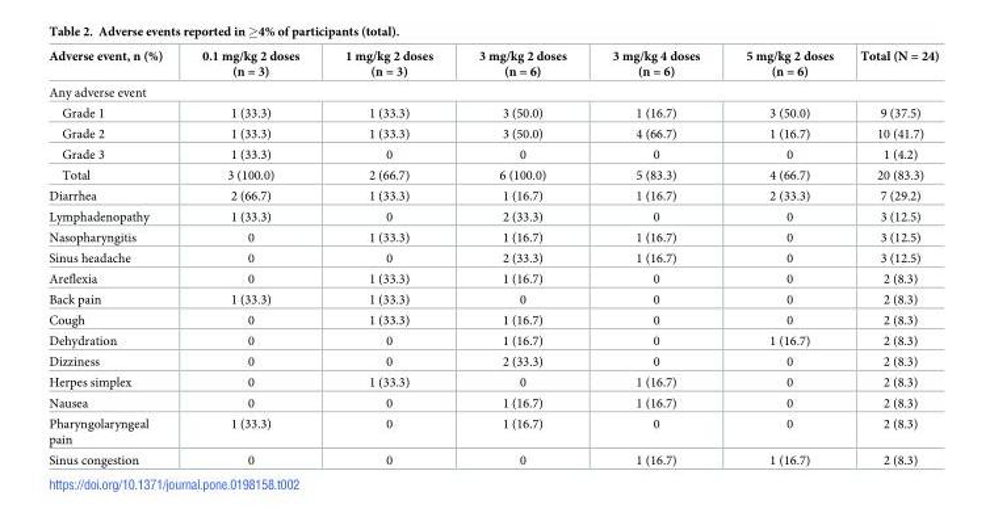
<table><thead><tr><td>Adverse event, n (%)</td><td>0.1 mg/kg 2 doses (n = 3)</td><td>1 mg/kg 2 doses (n = 3)</td><td>3 mg/kg 2 doses (n = 6)</td><td>3 mg/kg 4 doses (n = 6)</td><td>5 mg/kg 2 doses (n = 6)</td><td>Total (N = 24)</td></tr></thead><tbody><tr><td colspan="7">Any adverse event</td></tr><tr><td>Grade 1</td><td>1 (33.3)</td><td>1 (33.3)</td><td>3 (50.0)</td><td>1 (16.7)</td><td>3 (50.0)</td><td>9 (37.5)</td></tr><tr><td>Grade 2</td><td>1 (33.3)</td><td>1 (33.3)</td><td>3 (50.0)</td><td>4 (66.7)</td><td>1 (16.7)</td><td>10 (41.7)</td></tr><tr><td>Grade 3</td><td>1 (33.3)</td><td>0</td><td>0</td><td>0</td><td>0</td><td>1 (4.2)</td></tr><tr><td>Total</td><td>3 (100.0)</td><td>2 (66.7)</td><td>6 (100.0)</td><td>5 (83.3)</td><td>4 (66.7)</td><td>20 (83.3)</td></tr><tr><td>Diarrhea</td><td>2 (66.7)</td><td>1 (33.3)</td><td>1 (16.7)</td><td>1 (16.7)</td><td>2 (33.3)</td><td>7 (29.2)</td></tr><tr><td>Lymphadenopathy</td><td>1 (33.3)</td><td>0</td><td>2 (33.3)</td><td>0</td><td>0</td><td>3 (12.5)</td></tr><tr><td>Nasopharyngitis</td><td>0</td><td>1 (33.3)</td><td>1 (16.7)</td><td>1 (16.7)</td><td>0</td><td>3 (12.5)</td></tr><tr><td>Sinus headache</td><td>0</td><td>0</td><td>2 (33.3)</td><td>1 (16.7)</td><td>0</td><td>3 (12.5)</td></tr><tr><td>Areflexia</td><td>0</td><td>1 (33.3)</td><td>1 (16.7)</td><td>0</td><td>0</td><td>2 (8.3)</td></tr><tr><td>Back pain</td><td>1 (33.3)</td><td>1 (33.3)</td><td>0</td><td>0</td><td>0</td><td>2 (8.3)</td></tr><tr><td>Cough</td><td>0</td><td>1 (33.3)</td><td>1 (16.7)</td><td>0</td><td>0</td><td>2 (8.3)</td></tr><tr><td>Dehydration</td><td>0</td><td>0</td><td>1 (16.7)</td><td>0</td><td>1 (16.7)</td><td>2 (8.3)</td></tr><tr><td>Dizziness</td><td>0</td><td>0</td><td>2 (33.3)</td><td>0</td><td>0</td><td>2 (8.3)</td></tr><tr><td>Herpes simplex</td><td>0</td><td>1 (33.3)</td><td>0</td><td>1 (16.7)</td><td>0</td><td>2 (8.3)</td></tr><tr><td>Nausea</td><td>0</td><td>0</td><td>1 (16.7)</td><td>1 (16.7)</td><td>0</td><td>2 (8.3)</td></tr><tr><td>Pharyngolaryngeal pain</td><td>1 (33.3)</td><td>0</td><td>1 (16.7)</td><td>0</td><td>0</td><td>2 (8.3)</td></tr><tr><td>Sinus congestion</td><td>0</td><td>0</td><td>0</td><td>1 (16.7)</td><td>1 (16.7)</td><td>2 (8.3)</td></tr></tbody></table>